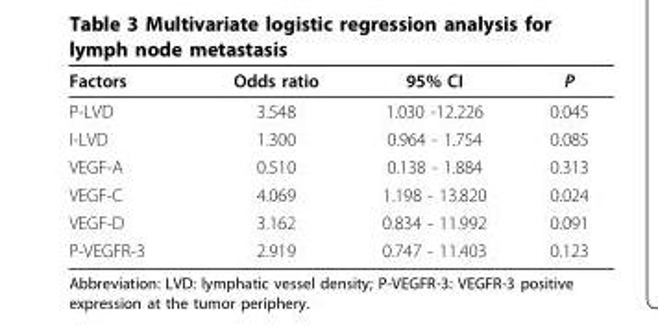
<table><thead><tr><td>Factors</td><td>Odds ratio</td><td>95% CI</td><td>P</td></tr></thead><tbody><tr><td>P-LVD</td><td>3.548</td><td>1.030 -12.226</td><td>0.045</td></tr><tr><td>I-LVD</td><td>1.300</td><td>0.964 - 1.754</td><td>0.085</td></tr><tr><td>VEGF-A</td><td>0.510</td><td>0.138 - 1.884</td><td>0.313</td></tr><tr><td>VEGF-C</td><td>4.069</td><td>1.198 - 13.820</td><td>0.024</td></tr><tr><td>VEGF-D</td><td>3.162</td><td>0.834 - 11.992</td><td>0.091</td></tr><tr><td>P-VEGFR-3</td><td>2.919</td><td>0.747 - 11.403</td><td>0.123</td></tr></tbody></table>